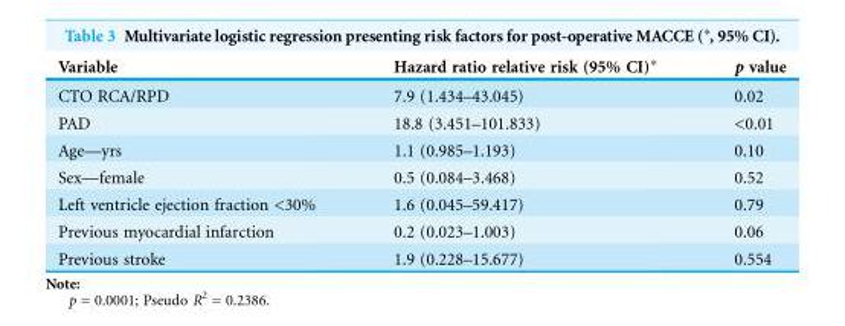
<table><thead><tr><td>Variable</td><td>Hazard ratio relative risk (95% CI)*</td><td>p value</td></tr></thead><tbody><tr><td>CTO RCA/RPD</td><td>7.9 (1.434–43.045)</td><td>0.02</td></tr><tr><td>PAD</td><td>18.8 (3.451–101.833)</td><td>&lt;0.01</td></tr><tr><td>Age—yrs</td><td>1.1 (0.985–1.193)</td><td>0.10</td></tr><tr><td>Sex—female</td><td>0.5 (0.084–3.468)</td><td>0.52</td></tr><tr><td>Left ventricle ejection fraction &lt;30%</td><td>1.6 (0.045–59.417)</td><td>0.79</td></tr><tr><td>Previous myocardial infarction</td><td>0.2 (0.023–1.003)</td><td>0.06</td></tr><tr><td>Previous stroke</td><td>1.9 (0.228–15.677)</td><td>0.554</td></tr></tbody></table>